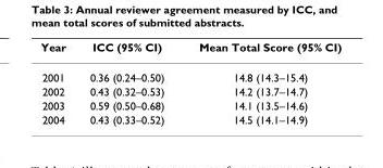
<table><thead><tr><td>Year</td><td>ICC (95% CI)</td><td>Mean Total Score (95% CI)</td></tr></thead><tbody><tr><td>2001</td><td>0.36 (0.24–0.50)</td><td>14.8 (14.3–15.4)</td></tr><tr><td>2002</td><td>0.43 (0.32–0.53)</td><td>14.2 (13.7–14.7)</td></tr><tr><td>2003</td><td>0.59 (0.50–0.68)</td><td>14.1 (13.5–14.6)</td></tr><tr><td>2004</td><td>0.43 (0.33–0.52)</td><td>14.5 (14.1–14.9)</td></tr></tbody></table>